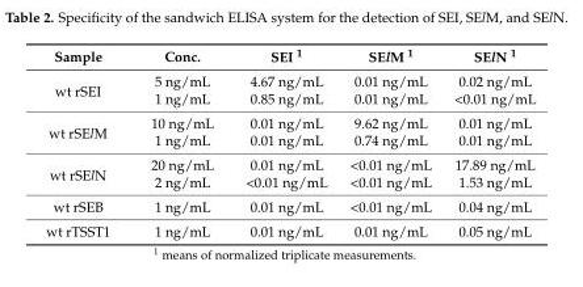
<table><thead><tr><td>Sample</td><td>Conc.</td><td>SEI <sup>1</sup></td><td>SElM <sup>1</sup></td><td>SElN <sup>1</sup></td></tr></thead><tbody><tr><td rowspan="2">wt rSEI</td><td>5 ng/mL</td><td>4.67 ng/mL</td><td>0.01 ng/mL</td><td>0.02 ng/mL</td></tr><tr><td>1 ng/mL</td><td>0.85 ng/mL</td><td>0.01 ng/mL</td><td>&lt;0.01 ng/mL</td></tr><tr><td rowspan="2">wt rSElM</td><td>10 ng/mL</td><td>0.01 ng/mL</td><td>9.62 ng/mL</td><td>0.01 ng/mL</td></tr><tr><td>1 ng/mL</td><td>0.01 ng/mL</td><td>0.74 ng/mL</td><td>0.01 ng/mL</td></tr><tr><td rowspan="2">wt rSElN</td><td>20 ng/mL</td><td>0.01 ng/mL</td><td>&lt;0.01 ng/mL</td><td>17.89 ng/mL</td></tr><tr><td>2 ng/mL</td><td>&lt;0.01 ng/mL</td><td>&lt;0.01 ng/mL</td><td>1.53 ng/mL</td></tr><tr><td>wt rSEB</td><td>1 ng/mL</td><td>0.01 ng/mL</td><td>&lt;0.01 ng/mL</td><td>0.04 ng/mL</td></tr><tr><td>wt rTSST1</td><td>1 ng/mL</td><td>0.01 ng/mL</td><td>0.01 ng/mL</td><td>0.05 ng/mL</td></tr></tbody></table>